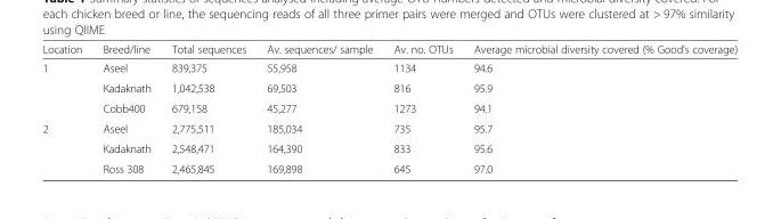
<table><thead><tr><td>Location</td><td>Breed/line</td><td>Total sequences</td><td>Av. sequences/ sample</td><td>Av. no. OTUs</td><td>Average microbial diversity covered (% Good’s coverage)</td></tr></thead><tbody><tr><td rowspan="3">1</td><td>Aseel</td><td>839,375</td><td>55,958</td><td>1134</td><td>94.6</td></tr><tr><td>Kadaknath</td><td>1,042,538</td><td>69,503</td><td>816</td><td>95.9</td></tr><tr><td>Cobb400</td><td>679,158</td><td>45,277</td><td>1273</td><td>94.1</td></tr><tr><td rowspan="3">2</td><td>Aseel</td><td>2,775,511</td><td>185,034</td><td>735</td><td>95.7</td></tr><tr><td>Kadaknath</td><td>2,548,471</td><td>164,390</td><td>833</td><td>95.6</td></tr><tr><td>Ross 308</td><td>2,465,845</td><td>169,898</td><td>645</td><td>97.0</td></tr></tbody></table>